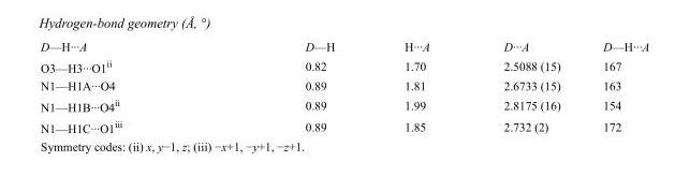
<table><tbody><tr><td>D—H···A</td><td>D—H</td><td>H···A</td><td>D···A</td><td>D—H···A</td></tr><tr><td>O3—H3···O1<sup>ii</sup></td><td>0.82</td><td>1.70</td><td>2.5088 (15)</td><td>167</td></tr><tr><td>N1—H1A···O4</td><td>0.89</td><td>1.81</td><td>2.6733 (15)</td><td>163</td></tr><tr><td>N1—H1B···O4<sup>ii</sup></td><td>0.89</td><td>1.99</td><td>2.8175 (16)</td><td>154</td></tr><tr><td>N1—H1C···O1<sup>iii</sup></td><td>0.89</td><td>1.85</td><td>2.732 (2)</td><td>172</td></tr></tbody></table>